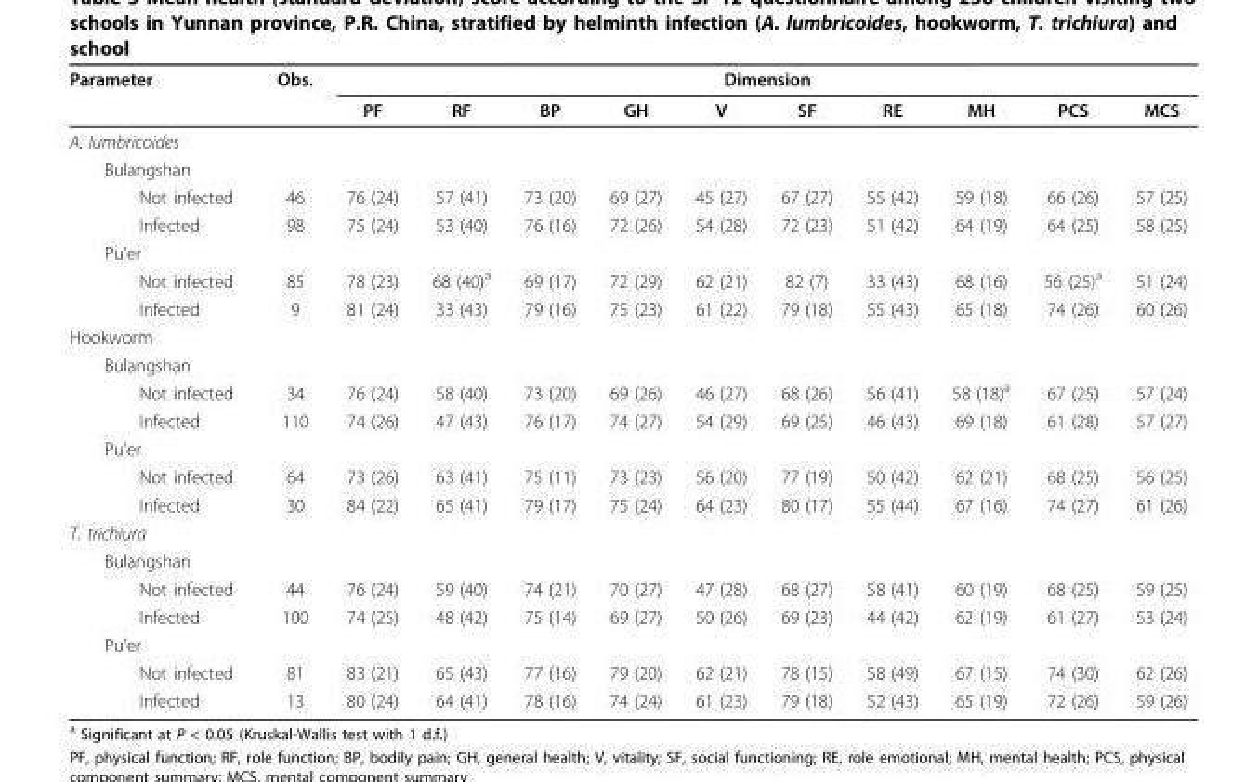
<table><thead><tr><td rowspan="2">Parameter</td><td rowspan="2">Obs.</td><td colspan="10">Dimension</td></tr><tr><td>PF</td><td>RF</td><td>BP</td><td>GH</td><td>V</td><td>SF</td><td>RE</td><td>MH</td><td>PCS</td><td>MCS</td></tr></thead><tbody><tr><td colspan="12">A. lumbricoides</td></tr><tr><td colspan="12">Bulangshan</td></tr><tr><td>Not infected</td><td>46</td><td>76 (24)</td><td>57 (41)</td><td>73 (20)</td><td>69 (27)</td><td>45 (27)</td><td>67 (27)</td><td>55 (42)</td><td>59 (18)</td><td>66 (26)</td><td>57 (25)</td></tr><tr><td>Infected</td><td>98</td><td>75 (24)</td><td>53 (40)</td><td>76 (16)</td><td>72 (26)</td><td>54 (28)</td><td>72 (23)</td><td>51 (42)</td><td>64 (19)</td><td>64 (25)</td><td>58 (25)</td></tr><tr><td colspan="12">Pu’er</td></tr><tr><td>Not infected</td><td>85</td><td>78 (23)</td><td>68 (40)<sup>a</sup></td><td>69 (17)</td><td>72 (29)</td><td>62 (21)</td><td>82 (7)</td><td>33 (43)</td><td>68 (16)</td><td>56 (25)<sup>a</sup></td><td>51 (24)</td></tr><tr><td>Infected</td><td>9</td><td>81 (24)</td><td>33 (43)</td><td>79 (16)</td><td>75 (23)</td><td>61 (22)</td><td>79 (18)</td><td>55 (43)</td><td>65 (18)</td><td>74 (26)</td><td>60 (26)</td></tr><tr><td colspan="12">Hookworm</td></tr><tr><td colspan="12">Bulangshan</td></tr><tr><td>Not infected</td><td>34</td><td>76 (24)</td><td>58 (40)</td><td>73 (20)</td><td>69 (26)</td><td>46 (27)</td><td>68 (26)</td><td>56 (41)</td><td>58 (18)<sup>a</sup></td><td>67 (25)</td><td>57 (24)</td></tr><tr><td>Infected</td><td>110</td><td>74 (26)</td><td>47 (43)</td><td>76 (17)</td><td>74 (27)</td><td>54 (29)</td><td>69 (25)</td><td>46 (43)</td><td>69 (18)</td><td>61 (28)</td><td>57 (27)</td></tr><tr><td colspan="12">Pu’er</td></tr><tr><td>Not infected</td><td>64</td><td>73 (26)</td><td>63 (41)</td><td>75 (11)</td><td>73 (23)</td><td>56 (20)</td><td>77 (19)</td><td>50 (42)</td><td>62 (21)</td><td>68 (25)</td><td>56 (25)</td></tr><tr><td>Infected</td><td>30</td><td>84 (22)</td><td>65 (41)</td><td>79 (17)</td><td>75 (24)</td><td>64 (23)</td><td>80 (17)</td><td>55 (44)</td><td>67 (16)</td><td>74 (27)</td><td>61 (26)</td></tr><tr><td colspan="12">T. trichiura</td></tr><tr><td colspan="12">Bulangshan</td></tr><tr><td>Not infected</td><td>44</td><td>76 (24)</td><td>59 (40)</td><td>74 (21)</td><td>70 (27)</td><td>47 (28)</td><td>68 (27)</td><td>58 (41)</td><td>60 (19)</td><td>68 (25)</td><td>59 (25)</td></tr><tr><td>Infected</td><td>100</td><td>74 (25)</td><td>48 (42)</td><td>75 (14)</td><td>69 (27)</td><td>50 (26)</td><td>69 (23)</td><td>44 (42)</td><td>62 (19)</td><td>61 (27)</td><td>53 (24)</td></tr><tr><td colspan="12">Pu’er</td></tr><tr><td>Not infected</td><td>81</td><td>83 (21)</td><td>65 (43)</td><td>77 (16)</td><td>79 (20)</td><td>62 (21)</td><td>78 (15)</td><td>58 (49)</td><td>67 (15)</td><td>74 (30)</td><td>62 (26)</td></tr><tr><td>Infected</td><td>13</td><td>80 (24)</td><td>64 (41)</td><td>78 (16)</td><td>74 (24)</td><td>61 (23)</td><td>79 (18)</td><td>52 (43)</td><td>65 (19)</td><td>72 (26)</td><td>59 (26)</td></tr></tbody></table>